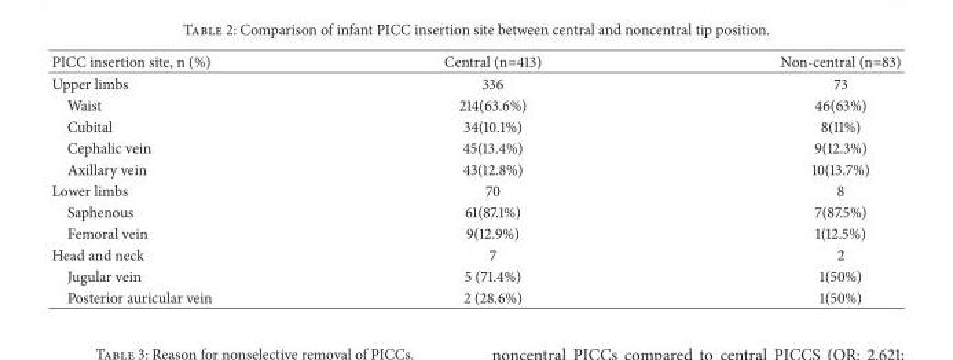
<table><thead><tr><td>PICC insertion site, n (%)</td><td>Central (n=413)</td><td>Non-central (n=83)</td></tr></thead><tbody><tr><td>Upper limbs</td><td>336</td><td>73</td></tr><tr><td>Waist</td><td>214(63.6%)</td><td>46(63%)</td></tr><tr><td>Cubital</td><td>34(10.1%)</td><td>8(11%)</td></tr><tr><td>Cephalic vein</td><td>45(13.4%)</td><td>9(12.3%)</td></tr><tr><td>Axillary vein</td><td>43(12.8%)</td><td>10(13.7%)</td></tr><tr><td>Lower limbs</td><td>70</td><td>8</td></tr><tr><td>Saphenous</td><td>61(87.1%)</td><td>7(87.5%)</td></tr><tr><td>Femoral vein</td><td>9(12.9%)</td><td>1(12.5%)</td></tr><tr><td>Head and neck</td><td>7</td><td>2</td></tr><tr><td>Jugular vein</td><td>5 (71.4%)</td><td>1(50%)</td></tr><tr><td>Posterior auricular vein</td><td>2 (28.6%)</td><td>1(50%)</td></tr></tbody></table>